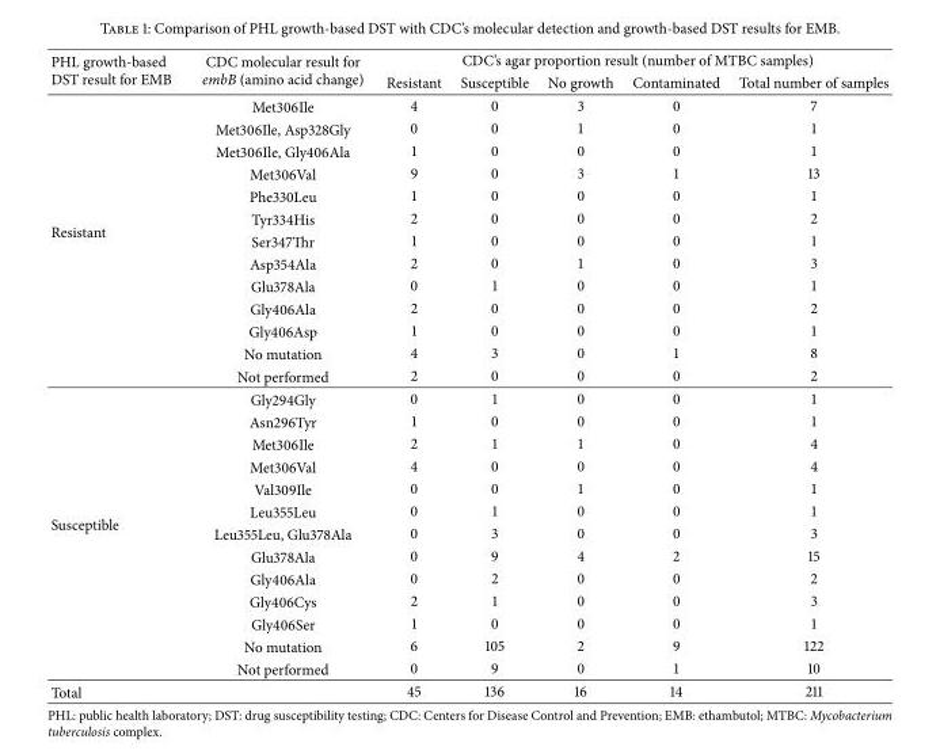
<table><thead><tr><td rowspan="2">PHL growth-based DST result for EMB</td><td rowspan="2">CDC molecular result for embB (amino acid change)</td><td colspan="5">CDC’s agar proportion result (number of MTBC samples)</td></tr><tr><td>Resistant</td><td>Susceptible</td><td>No growth</td><td>Contaminated</td><td>Total number of samples</td></tr></thead><tbody><tr><td rowspan="13">Resistant</td><td>Met306Ile</td><td>4</td><td>0</td><td>3</td><td>0</td><td>7</td></tr><tr><td>Met306Ile, Asp328Gly</td><td>0</td><td>0</td><td>1</td><td>0</td><td>1</td></tr><tr><td>Met306Ile, Gly406Ala</td><td>1</td><td>0</td><td>0</td><td>0</td><td>1</td></tr><tr><td>Met306Val</td><td>9</td><td>0</td><td>3</td><td>1</td><td>13</td></tr><tr><td>Phe330Leu</td><td>1</td><td>0</td><td>0</td><td>0</td><td>1</td></tr><tr><td>Tyr334His</td><td>2</td><td>0</td><td>0</td><td>0</td><td>2</td></tr><tr><td>Ser347Thr</td><td>1</td><td>0</td><td>0</td><td>0</td><td>1</td></tr><tr><td>Asp354Ala</td><td>2</td><td>0</td><td>1</td><td>0</td><td>3</td></tr><tr><td>Glu378Ala</td><td>0</td><td>1</td><td>0</td><td>0</td><td>1</td></tr><tr><td>Gly406Ala</td><td>2</td><td>0</td><td>0</td><td>0</td><td>2</td></tr><tr><td>Gly406Asp</td><td>1</td><td>0</td><td>0</td><td>0</td><td>1</td></tr><tr><td>No mutation</td><td>4</td><td>3</td><td>0</td><td>1</td><td>8</td></tr><tr><td>Not performed</td><td>2</td><td>0</td><td>0</td><td>0</td><td>2</td></tr><tr><td rowspan="13">Susceptible</td><td>Gly294Gly</td><td>0</td><td>1</td><td>0</td><td>0</td><td>1</td></tr><tr><td>Asn296Tyr</td><td>1</td><td>0</td><td>0</td><td>0</td><td>1</td></tr><tr><td>Met306Ile</td><td>2</td><td>1</td><td>1</td><td>0</td><td>4</td></tr><tr><td>Met306Val</td><td>4</td><td>0</td><td>0</td><td>0</td><td>4</td></tr><tr><td>Val309Ile</td><td>0</td><td>0</td><td>1</td><td>0</td><td>1</td></tr><tr><td>Leu355Leu</td><td>0</td><td>1</td><td>0</td><td>0</td><td>1</td></tr><tr><td>Leu355Leu, Glu378Ala</td><td>0</td><td>3</td><td>0</td><td>0</td><td>3</td></tr><tr><td>Glu378Ala</td><td>0</td><td>9</td><td>4</td><td>2</td><td>15</td></tr><tr><td>Gly406Ala</td><td>0</td><td>2</td><td>0</td><td>0</td><td>2</td></tr><tr><td>Gly406Cys</td><td>2</td><td>1</td><td>0</td><td>0</td><td>3</td></tr><tr><td>Gly406Ser</td><td>1</td><td>0</td><td>0</td><td>0</td><td>1</td></tr><tr><td>No mutation</td><td>6</td><td>105</td><td>2</td><td>9</td><td>122</td></tr><tr><td>Not performed</td><td>0</td><td>9</td><td>0</td><td>1</td><td>10</td></tr><tr><td>Total</td><td></td><td>45</td><td>136</td><td>16</td><td>14</td><td>211</td></tr></tbody></table>